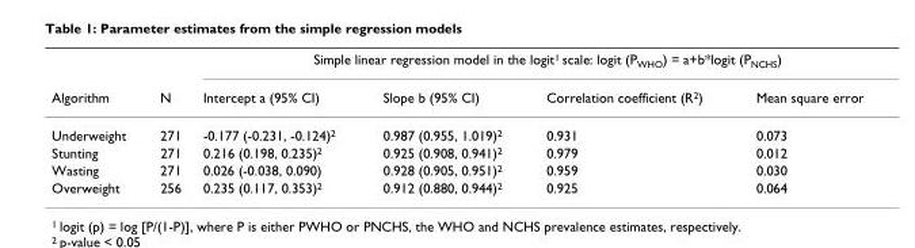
<table><thead><tr><td rowspan="2">Algorithm</td><td rowspan="2">N</td><td colspan="4">Simple linear regression model in the logit<sup>1</sup> scale: logit (P<sub>WHO</sub>) = a+b*logit (P<sub>NCHS</sub>)</td></tr><tr><td>Intercept a (95% CI)</td><td>Slope b (95% CI)</td><td>Correlation coefficient (R<sup>2</sup>)</td><td>Mean square error</td></tr></thead><tbody><tr><td>Underweight</td><td>271</td><td>-0.177 (-0.231, -0.124)<sup>2</sup></td><td>0.987 (0.955, 1.019)<sup>2</sup></td><td>0.931</td><td>0.073</td></tr><tr><td>Stunting</td><td>271</td><td>0.216 (0.198, 0.235)<sup>2</sup></td><td>0.925 (0.908, 0.941)<sup>2</sup></td><td>0.979</td><td>0.012</td></tr><tr><td>Wasting</td><td>271</td><td>0.026 (-0.038, 0.090)</td><td>0.928 (0.905, 0.951)<sup>2</sup></td><td>0.959</td><td>0.030</td></tr><tr><td>Overweight</td><td>256</td><td>0.235 (0.117, 0.353)<sup>2</sup></td><td>0.912 (0.880, 0.944)<sup>2</sup></td><td>0.925</td><td>0.064</td></tr></tbody></table>